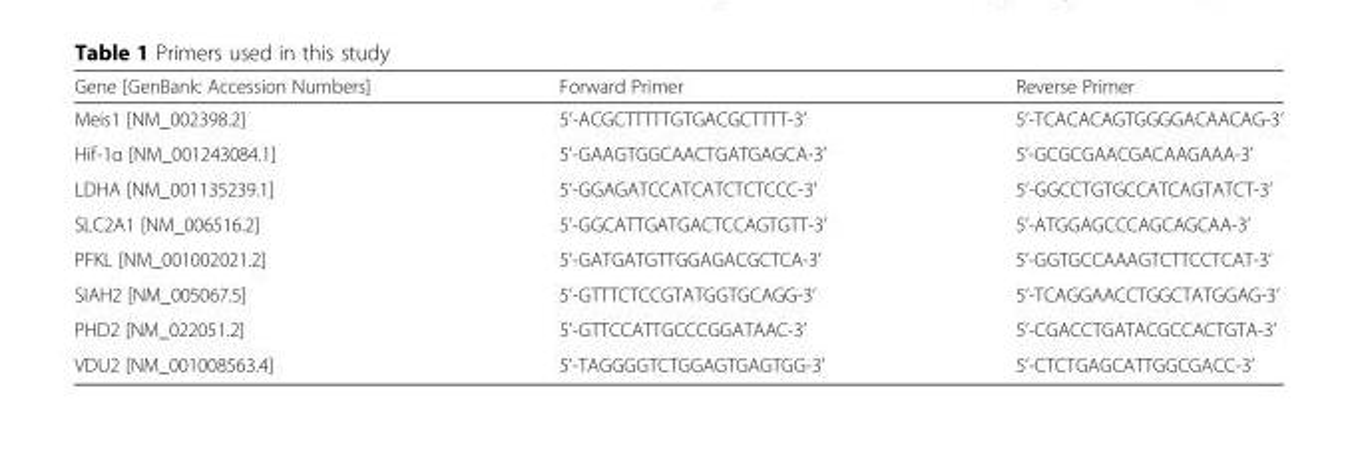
<table><thead><tr><td>Gene [GenBank: Accession Numbers]</td><td>Forward Primer</td><td>Reverse Primer</td></tr></thead><tbody><tr><td>Meis1 [NM_002398.2]</td><td>5’-ACGCTTTTTGTGACGCTTTT-3’</td><td>5’-TCACACAGTGGGGACAACAG-3’</td></tr><tr><td>Hif-1α [NM_001243084.1]</td><td>5’-GAAGTGGCAACTGATGAGCA-3’</td><td>5’-GCGCGAACGACAAGAAA-3’</td></tr><tr><td>LDHA [NM_001135239.1]</td><td>5’-GGAGATCCATCATCTCTCCC-3’</td><td>5’-GGCCTGTGCCATCAGTATCT-3’</td></tr><tr><td>SLC2A1 [NM_006516.2]</td><td>5’-GGCATTGATGACTCCAGTGTT-3’</td><td>5’-ATGGAGCCCAGCAGCAA-3’</td></tr><tr><td>PFKL [NM_001002021.2]</td><td>5’-GATGATGTTGGAGACGCTCA-3’</td><td>5’-GGTGCCAAAGTCTTCCTCAT-3’</td></tr><tr><td>SIAH2 [NM_005067.5]</td><td>5’-GTTTCTCCGTATGGTGCAGG-3’</td><td>5’-TCAGGAACCTGGCTATGGAG-3’</td></tr><tr><td>PHD2 [NM_022051.2]</td><td>5’-GTTCCATTGCCCGGATAAC-3’</td><td>5’-CGACCTGATACGCCACTGTA-3’</td></tr><tr><td>VDU2 [NM_001008563.4]</td><td>5’-TAGGGGTCTGGAGTGAGTGG-3’</td><td>5’-CTCTGAGCATTGGCGACC-3’</td></tr></tbody></table>